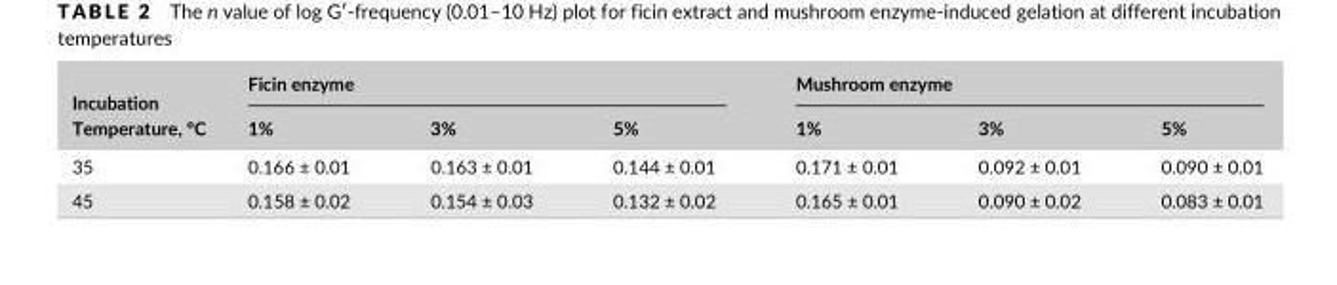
<table><thead><tr><td rowspan="2">Incubation Temperature, °C</td><td colspan="3">Ficin enzyme</td><td colspan="3">Mushroom enzyme</td></tr><tr><td>1%</td><td>3%</td><td>5%</td><td>1%</td><td>3%</td><td>5%</td></tr></thead><tbody><tr><td>35</td><td>0.166 ± 0.01</td><td>0.163 ± 0.01</td><td>0.144 ± 0.01</td><td>0.171 ± 0.01</td><td>0.092 ± 0.01</td><td>0.090 ± 0.01</td></tr><tr><td>45</td><td>0.158 ± 0.02</td><td>0.154 ± 0.03</td><td>0.132 ± 0.02</td><td>0.165 ± 0.01</td><td>0.090 ± 0.02</td><td>0.083 ± 0.01</td></tr></tbody></table>